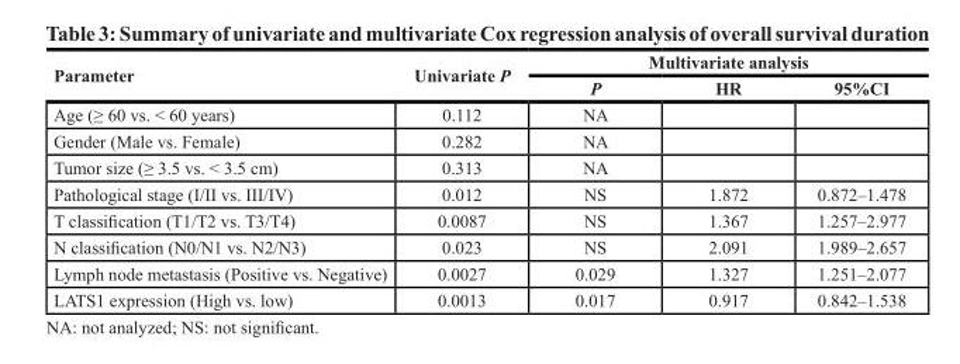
<table><thead><tr><td rowspan="2">Parameter</td><td rowspan="2">Univariate P</td><td colspan="3">Multivariate analysis</td></tr><tr><td>P</td><td>HR</td><td>95%CI</td></tr></thead><tbody><tr><td>Age (≥ 60 vs. &lt; 60 years)</td><td>0.112</td><td>NA</td><td></td><td></td></tr><tr><td>Gender (Male vs. Female)</td><td>0.282</td><td>NA</td><td></td><td></td></tr><tr><td>Tumor size (≥ 3.5 vs. &lt; 3.5 cm)</td><td>0.313</td><td>NA</td><td></td><td></td></tr><tr><td>Pathological stage (I/II vs. III/IV)</td><td>0.012</td><td>NS</td><td>1.872</td><td>0.872–1.478</td></tr><tr><td>T classification (T1/T2 vs. T3/T4)</td><td>0.0087</td><td>NS</td><td>1.367</td><td>1.257–2.977</td></tr><tr><td>N classification (N0/N1 vs. N2/N3)</td><td>0.023</td><td>NS</td><td>2.091</td><td>1.989–2.657</td></tr><tr><td>Lymph node metastasis (Positive vs. Negative)</td><td>0.0027</td><td>0.029</td><td>1.327</td><td>1.251–2.077</td></tr><tr><td>LATS1 expression (High vs. low)</td><td>0.0013</td><td>0.017</td><td>0.917</td><td>0.842–1.538</td></tr></tbody></table>